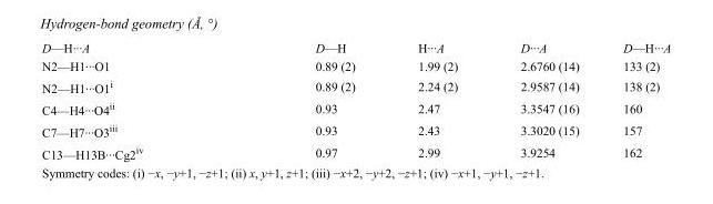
<table><tbody><tr><td>D—H···A</td><td>D—H</td><td>H···A</td><td>D···A</td><td>D—H···A</td></tr><tr><td>N2—H1···O1</td><td>0.89 (2)</td><td>1.99 (2)</td><td>2.6760 (14)</td><td>133 (2)</td></tr><tr><td>N2—H1···O1<sup>i</sup></td><td>0.89 (2)</td><td>2.24 (2)</td><td>2.9587 (14)</td><td>138 (2)</td></tr><tr><td>C4—H4···O4<sup>ii</sup></td><td>0.93</td><td>2.47</td><td>3.3547 (16)</td><td>160</td></tr><tr><td>C7—H7···O3<sup>iii</sup></td><td>0.93</td><td>2.43</td><td>3.3020 (15)</td><td>157</td></tr><tr><td>C13—H13B···Cg2<sup>iv</sup></td><td>0.97</td><td>2.99</td><td>3.9254</td><td>162</td></tr></tbody></table>